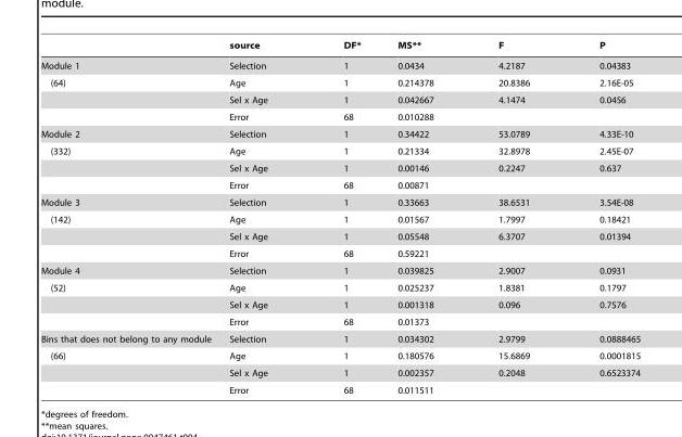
<table><thead><tr><td></td><td>source</td><td>DF*</td><td>MS**</td><td>F</td><td>P</td></tr></thead><tbody><tr><td>Module 1</td><td>Selection</td><td>1</td><td>0.0434</td><td>4.2187</td><td>0.04383</td></tr><tr><td rowspan="3">(64)</td><td>Age</td><td>1</td><td>0.214378</td><td>20.8386</td><td>2.16E-05</td></tr><tr><td>Sel x Age</td><td>1</td><td>0.042667</td><td>4.1474</td><td>0.0456</td></tr><tr><td>Error</td><td>68</td><td>0.010288</td><td></td><td></td></tr><tr><td>Module 2</td><td>Selection</td><td>1</td><td>0.34422</td><td>53.0789</td><td>4.33E-10</td></tr><tr><td rowspan="3">(332)</td><td>Age</td><td>1</td><td>0.21334</td><td>32.8978</td><td>2.45E-07</td></tr><tr><td>Sel x Age</td><td>1</td><td>0.00146</td><td>0.2247</td><td>0.637</td></tr><tr><td>Error</td><td>68</td><td>0.00871</td><td></td><td></td></tr><tr><td>Module 3</td><td>Selection</td><td>1</td><td>0.33663</td><td>38.6531</td><td>3.54E-08</td></tr><tr><td rowspan="3">(142)</td><td>Age</td><td>1</td><td>0.01567</td><td>1.7997</td><td>0.18421</td></tr><tr><td>Sel x Age</td><td>1</td><td>0.05548</td><td>6.3707</td><td>0.01394</td></tr><tr><td>Error</td><td>68</td><td>0.59221</td><td></td><td></td></tr><tr><td>Module 4</td><td>Selection</td><td>1</td><td>0.039825</td><td>2.9007</td><td>0.0931</td></tr><tr><td rowspan="3">(52)</td><td>Age</td><td>1</td><td>0.025237</td><td>1.8381</td><td>0.1797</td></tr><tr><td>Sel x Age</td><td>1</td><td>0.001318</td><td>0.096</td><td>0.7576</td></tr><tr><td>Error</td><td>68</td><td>0.01373</td><td></td><td></td></tr><tr><td>Bins that does not belong to any module</td><td>Selection</td><td>1</td><td>0.034302</td><td>2.9799</td><td>0.0888465</td></tr><tr><td rowspan="3">(66)</td><td>Age</td><td>1</td><td>0.180576</td><td>15.6869</td><td>0.0001815</td></tr><tr><td>Sel x Age</td><td>1</td><td>0.002357</td><td>0.2048</td><td>0.6523374</td></tr><tr><td>Error</td><td>68</td><td>0.011511</td><td></td><td></td></tr></tbody></table>